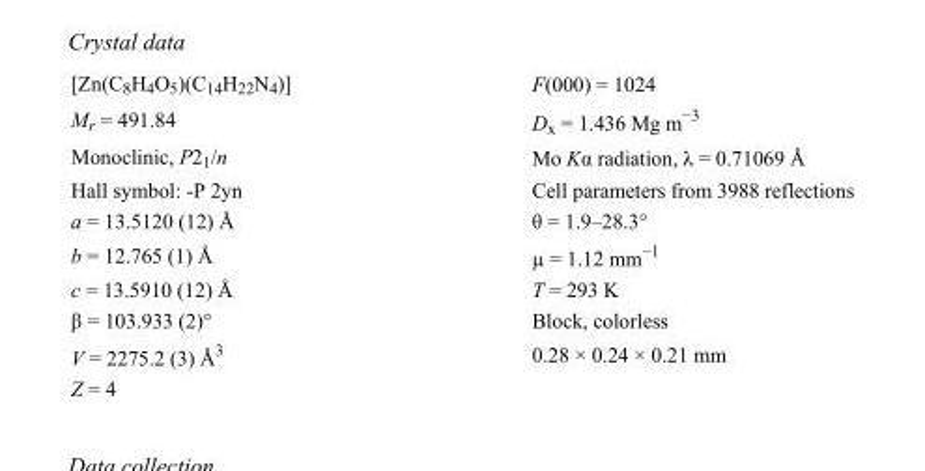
<table><tbody><tr><td>[Zn(C<sub>8</sub>H<sub>4</sub>O<sub>5</sub>)(C<sub>14</sub>H<sub>22</sub>N<sub>4</sub>)]</td><td>F(000) = 1024</td></tr><tr><td>M<sub>r</sub> = 491.84</td><td>D<sub>x</sub> = 1.436 Mg m<sup>−3</sup></td></tr><tr><td>Monoclinic, P2<sub>1</sub>/n</td><td>Mo Kα radiation, λ = 0.71069 Å</td></tr><tr><td>Hall symbol: -P 2yn</td><td>Cell parameters from 3988 reflections</td></tr><tr><td>a = 13.5120 (12) Å</td><td>θ = 1.9–28.3°</td></tr><tr><td>b = 12.765 (1) Å</td><td>µ = 1.12 mm<sup>−1</sup></td></tr><tr><td>c = 13.5910 (12) Å</td><td>T = 293 K</td></tr><tr><td>β = 103.933 (2)°</td><td>Block, colorless</td></tr><tr><td>V = 2275.2 (3) Å<sup>3</sup></td><td>0.28 × 0.24 × 0.21 mm</td></tr><tr><td>Z = 4</td><td></td></tr></tbody></table>